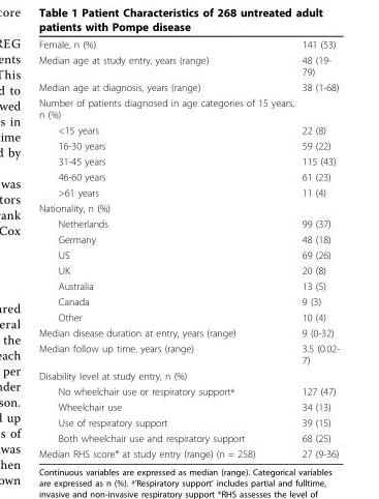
<table><tbody><tr><td>Female, n (%)</td><td>141 (53)</td></tr><tr><td>Median age at study entry, years (range)</td><td>48 (19- 79)</td></tr><tr><td>Median age at diagnosis, years (range)</td><td>38 (1-68)</td></tr><tr><td colspan="2">Number of patients diagnosed in age categories of 15 years, n (%)</td></tr><tr><td>&lt;15 years</td><td>22 (8)</td></tr><tr><td>16-30 years</td><td>59 (22)</td></tr><tr><td>31-45 years</td><td>115 (43)</td></tr><tr><td>46-60 years</td><td>61 (23)</td></tr><tr><td>&gt;61 years</td><td>11 (4)</td></tr><tr><td colspan="2">Nationality, n (%)</td></tr><tr><td>Netherlands</td><td>99 (37)</td></tr><tr><td>Germany</td><td>48 (18)</td></tr><tr><td>US</td><td>69 (26)</td></tr><tr><td>UK</td><td>20 (8)</td></tr><tr><td>Australia</td><td>13 (5)</td></tr><tr><td>Canada</td><td>9 (3)</td></tr><tr><td>Other</td><td>10 (4)</td></tr><tr><td>Median disease duration at entry, years (range)</td><td>9 (0-32)</td></tr><tr><td>Median follow up time, years (range)</td><td>3.5 (0.02- 7)</td></tr><tr><td colspan="2">Disability level at study entry, n (%)</td></tr><tr><td>No wheelchair use or respiratory supportª</td><td>127 (47)</td></tr><tr><td>Wheelchair use</td><td>34 (13)</td></tr><tr><td>Use of respiratory support</td><td>39 (15)</td></tr><tr><td>Both wheelchair use and respiratory support</td><td>68 (25)</td></tr><tr><td>Median RHS score* at study entry (range) (n = 258)</td><td>27 (9-36)</td></tr></tbody></table>